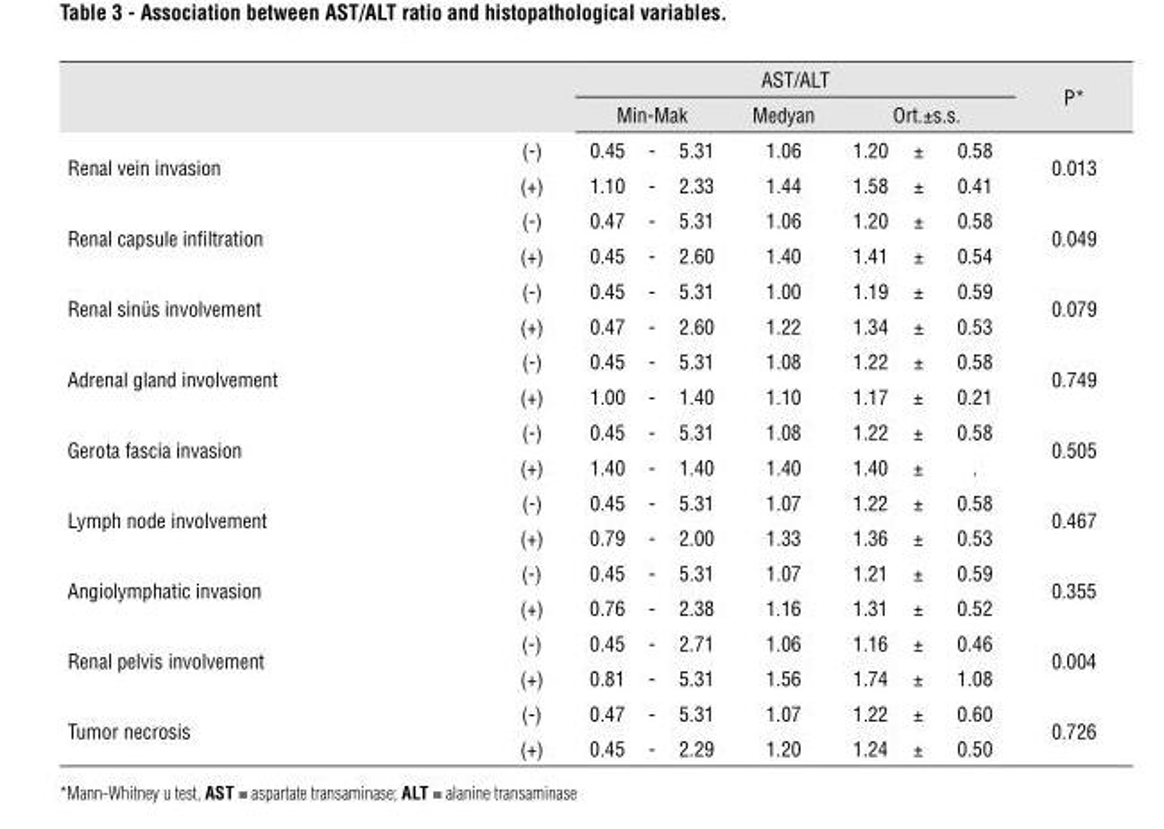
<table><thead><tr><td rowspan="2"></td><td rowspan="2"></td><td colspan="3">AST/ALT</td><td rowspan="2">P*</td></tr><tr><td>Min-Mak</td><td>Medyan</td><td>Ort.±s.s.</td></tr></thead><tbody><tr><td rowspan="2">Renal vein invasion</td><td>(-)</td><td>0.45 - 5.31</td><td>1.06</td><td>1.20 ± 0.58</td><td rowspan="2">0.013</td></tr><tr><td>(+)</td><td>1.10 - 2.33</td><td>1.44</td><td>1.58 ± 0.41</td></tr><tr><td rowspan="2">Renal capsule infiltration</td><td>(-)</td><td>0.47 - 5.31</td><td>1.06</td><td>1.20 ± 0.58</td><td rowspan="2">0.049</td></tr><tr><td>(+)</td><td>0.45 - 2.60</td><td>1.40</td><td>1.41 ± 0.54</td></tr><tr><td rowspan="2">Renal sinüs involvement</td><td>(-)</td><td>0.45 - 5.31</td><td>1.00</td><td>1.19 ± 0.59</td><td rowspan="2">0.079</td></tr><tr><td>(+)</td><td>0.47 - 2.60</td><td>1.22</td><td>1.34 ± 0.53</td></tr><tr><td rowspan="2">Adrenal gland involvement</td><td>(-)</td><td>0.45 - 5.31</td><td>1.08</td><td>1.22 ± 0.58</td><td rowspan="2">0.749</td></tr><tr><td>(+)</td><td>1.00 - 1.40</td><td>1.10</td><td>1.17 ± 0.21</td></tr><tr><td rowspan="2">Gerota fascia invasion</td><td>(-)</td><td>0.45 - 5.31</td><td>1.08</td><td>1.22 ± 0.58</td><td rowspan="2">0.505</td></tr><tr><td>(+)</td><td>1.40 - 1.40</td><td>1.40</td><td>1.40 ± .</td></tr><tr><td rowspan="2">Lymph node involvement</td><td>(-)</td><td>0.45 - 5.31</td><td>1.07</td><td>1.22 ± 0.58</td><td rowspan="2">0.467</td></tr><tr><td>(+)</td><td>0.79 - 2.00</td><td>1.33</td><td>1.36 ± 0.53</td></tr><tr><td rowspan="2">Angiolymphatic invasion</td><td>(-)</td><td>0.45 - 5.31</td><td>1.07</td><td>1.21 ± 0.59</td><td rowspan="2">0.355</td></tr><tr><td>(+)</td><td>0.76 - 2.38</td><td>1.16</td><td>1.31 ± 0.52</td></tr><tr><td rowspan="2">Renal pelvis involvement</td><td>(-)</td><td>0.45 - 2.71</td><td>1.06</td><td>1.16 ± 0.46</td><td rowspan="2">0.004</td></tr><tr><td>(+)</td><td>0.81 - 5.31</td><td>1.56</td><td>1.74 ± 1.08</td></tr><tr><td rowspan="2">Tumor necrosis</td><td>(-)</td><td>0.47 - 5.31</td><td>1.07</td><td>1.22 ± 0.60</td><td rowspan="2">0.726</td></tr><tr><td>(+)</td><td>0.45 - 2.29</td><td>1.20</td><td>1.24 ± 0.50</td></tr></tbody></table>